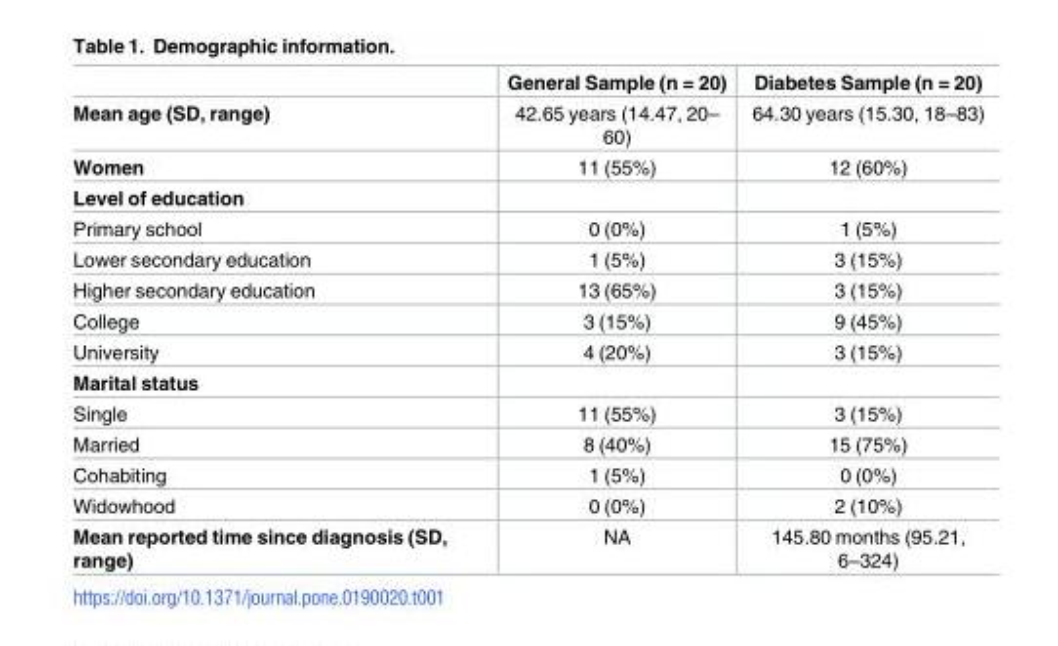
<table><thead><tr><td></td><td>General Sample (n = 20)</td><td>Diabetes Sample (n = 20)</td></tr></thead><tbody><tr><td>Mean age (SD, range)</td><td>42.65 years (14.47, 20– 60)</td><td>64.30 years (15.30, 18–83)</td></tr><tr><td>Women</td><td>11 (55%)</td><td>12 (60%)</td></tr><tr><td colspan="3">Level of education</td></tr><tr><td>Primary school</td><td>0 (0%)</td><td>1 (5%)</td></tr><tr><td>Lower secondary education</td><td>1 (5%)</td><td>3 (15%)</td></tr><tr><td>Higher secondary education</td><td>13 (65%)</td><td>3 (15%)</td></tr><tr><td>College</td><td>3 (15%)</td><td>9 (45%)</td></tr><tr><td>University</td><td>4 (20%)</td><td>3 (15%)</td></tr><tr><td colspan="3">Marital status</td></tr><tr><td>Single</td><td>11 (55%)</td><td>3 (15%)</td></tr><tr><td>Married</td><td>8 (40%)</td><td>15 (75%)</td></tr><tr><td>Cohabiting</td><td>1 (5%)</td><td>0 (0%)</td></tr><tr><td>Widowhood</td><td>0 (0%)</td><td>2 (10%)</td></tr><tr><td>Mean reported time since diagnosis (SD, range)</td><td>NA</td><td>145.80 months (95.21, 6–324)</td></tr></tbody></table>